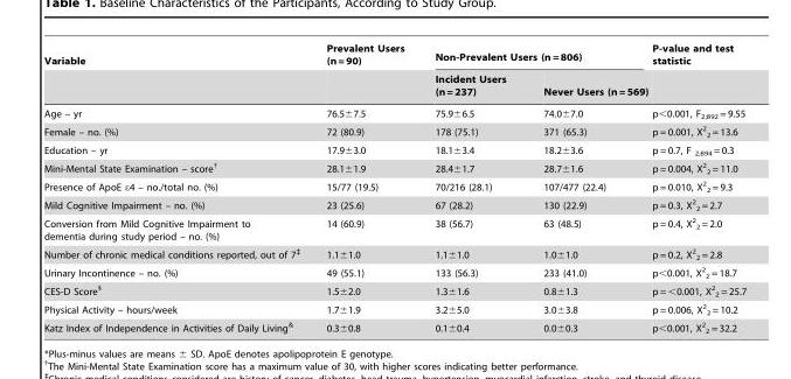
<table><thead><tr><td rowspan="2">Variable</td><td rowspan="2">Prevalent Users (n = 90)</td><td colspan="2">Non-Prevalent Users (n = 806)</td><td rowspan="2">P-value and test statistic</td></tr><tr><td>Incident Users (n = 237)</td><td>Never Users (n = 569)</td></tr></thead><tbody><tr><td>Age – yr</td><td>76.5±7.5</td><td>75.9±6.5</td><td>74.0±7.0</td><td>p&lt;0.001, F<sub>2;892</sub> = 9.55</td></tr><tr><td>Female – no. (%)</td><td>72 (80.9)</td><td>178 (75.1)</td><td>371 (65.3)</td><td>p = 0.001, X<sup>2</sup> <sub>2</sub> = 13.6</td></tr><tr><td>Education – yr</td><td>17.9±3.0</td><td>18.1±3.4</td><td>18.2±3.6</td><td>p = 0.7, F <sub>2;894</sub> = 0.3</td></tr><tr><td>Mini-Mental State Examination – score†</td><td>28.1±1.9</td><td>28.4±1.7</td><td>28.7±1.6</td><td>p = 0.004, X<sup>2</sup> <sub>2</sub> = 11.0</td></tr><tr><td>Presence of ApoE ε4 – no./total no. (%)</td><td>15/77 (19.5)</td><td>70/216 (28.1)</td><td>107/477 (22.4)</td><td>p = 0.010, X<sup>2</sup> <sub>2</sub> = 9.3</td></tr><tr><td>Mild Cognitive Impairment – no. (%)</td><td>23 (25.6)</td><td>67 (28.2)</td><td>130 (22.9)</td><td>p = 0.3, X<sup>2</sup> <sub>2</sub> = 2.7</td></tr><tr><td>Conversion from Mild Cognitive Impairment to dementia during study period – no. (%)</td><td>14 (60.9)</td><td>38 (56.7)</td><td>63 (48.5)</td><td>p = 0.4, X<sup>2</sup> <sub>2</sub> = 2.0</td></tr><tr><td>Number of chronic medical conditions reported, out of 7‡</td><td>1.1±1.0</td><td>1.1±1.0</td><td>1.0±1.0</td><td>p = 0.2, X<sup>2</sup> <sub>2</sub> = 2.8</td></tr><tr><td>Urinary Incontinence – no. (%)</td><td>49 (55.1)</td><td>133 (56.3)</td><td>233 (41.0)</td><td>p&lt;0.001, X<sup>2</sup> <sub>2</sub> = 18.7</td></tr><tr><td>CES-D Score§</td><td>1.5±2.0</td><td>1.3±1.6</td><td>0.8±1.3</td><td>p = &lt;0.001, X<sup>2</sup> <sub>2</sub> = 25.7</td></tr><tr><td>Physical Activity – hours/week</td><td>1.7±1.9</td><td>3.2±5.0</td><td>3.0±3.8</td><td>p = 0.006, X<sup>2</sup> <sub>2</sub> = 10.2</td></tr><tr><td>Katz Index of Independence in Activities of Daily Living&amp;</td><td>0.3±0.8</td><td>0.1±0.4</td><td>0.0±0.3</td><td>p&lt;0.001, X<sup>2</sup> <sub>2</sub> = 32.2</td></tr></tbody></table>